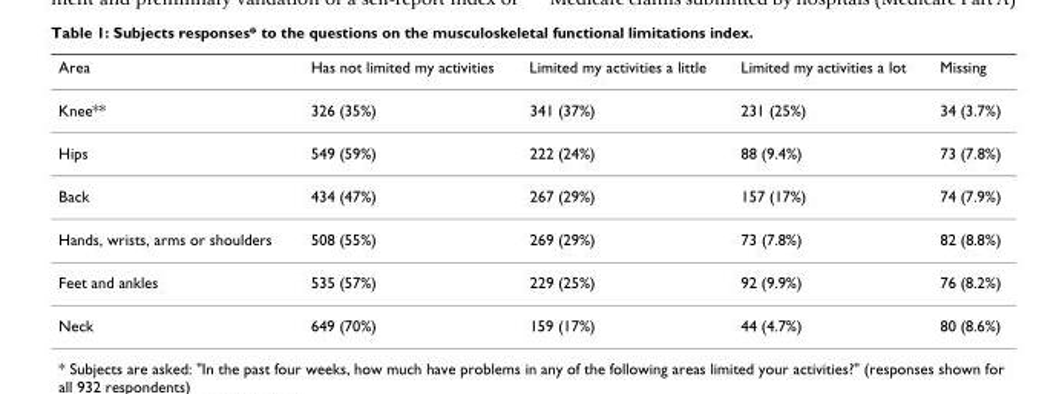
<table><thead><tr><td>Area</td><td>Has not limited my activities</td><td>Limited my activities a little</td><td>Limited my activities a lot</td><td>Missing</td></tr></thead><tbody><tr><td>Knee**</td><td>326 (35%)</td><td>341 (37%)</td><td>231 (25%)</td><td>34 (3.7%)</td></tr><tr><td>Hips</td><td>549 (59%)</td><td>222 (24%)</td><td>88 (9.4%)</td><td>73 (7.8%)</td></tr><tr><td>Back</td><td>434 (47%)</td><td>267 (29%)</td><td>157 (17%)</td><td>74 (7.9%)</td></tr><tr><td>Hands, wrists, arms or shoulders</td><td>508 (55%)</td><td>269 (29%)</td><td>73 (7.8%)</td><td>82 (8.8%)</td></tr><tr><td>Feet and ankles</td><td>535 (57%)</td><td>229 (25%)</td><td>92 (9.9%)</td><td>76 (8.2%)</td></tr><tr><td>Neck</td><td>649 (70%)</td><td>159 (17%)</td><td>44 (4.7%)</td><td>80 (8.6%)</td></tr></tbody></table>